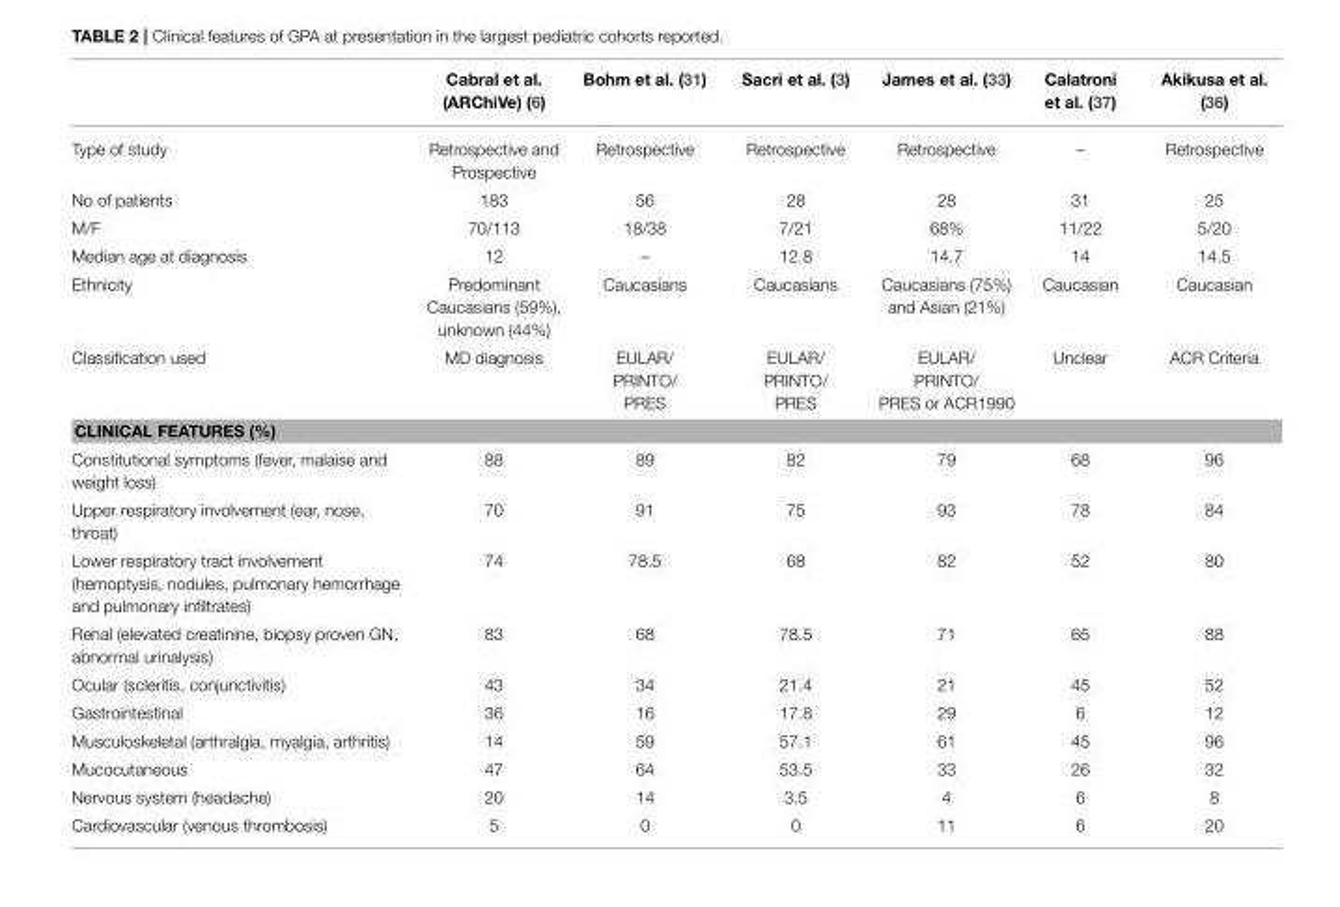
<table><thead><tr><td></td><td>Cabral et al. (ARChiVe) (6)</td><td>Bohm et al. (31)</td><td>Sacri et al. (3)</td><td>James et al. (33)</td><td>Calatroni et al. (37)</td><td>Akikusa et al. (36)</td></tr></thead><tbody><tr><td>Type of study</td><td>Retrospective and Prospective</td><td>Retrospective</td><td>Retrospective</td><td>Retrospective</td><td>–</td><td>Retrospective</td></tr><tr><td>No of patients</td><td>183</td><td>56</td><td>28</td><td>28</td><td>31</td><td>25</td></tr><tr><td>M/F</td><td>70/113</td><td>18/38</td><td>7/21</td><td>68%</td><td>11/22</td><td>5/20</td></tr><tr><td>Median age at diagnosis</td><td>12</td><td>–</td><td>12.8</td><td>14.7</td><td>14</td><td>14.5</td></tr><tr><td>Ethnicity</td><td>Predominant Caucasians (59%), unknown (44%)</td><td>Caucasians</td><td>Caucasians</td><td>Caucasians (75%) and Asian (21%)</td><td>Caucasian</td><td>Caucasian</td></tr><tr><td>Classification used</td><td>MD diagnosis</td><td>EULAR/ PRINTO/ PRES</td><td>EULAR/ PRINTO/ PRES</td><td>EULAR/ PRINTO/ PRES or ACR1990</td><td>Unclear</td><td>ACR Criteria</td></tr><tr><td colspan="7">CLINICAL FEATURES (%)</td></tr><tr><td>Constitutional symptoms (fever, malaise and weight loss)</td><td>88</td><td>89</td><td>82</td><td>79</td><td>68</td><td>96</td></tr><tr><td>Upper respiratory involvement (ear, nose, throat)</td><td>70</td><td>91</td><td>75</td><td>93</td><td>78</td><td>84</td></tr><tr><td>Lower respiratory tract involvement (hemoptysis, nodules, pulmonary hemorrhage and pulmonary infiltrates)</td><td>74</td><td>78.5</td><td>68</td><td>82</td><td>52</td><td>80</td></tr><tr><td>Renal (elevated creatinine, biopsy proven GN, abnormal urinalysis)</td><td>83</td><td>68</td><td>78.5</td><td>71</td><td>65</td><td>88</td></tr><tr><td>Ocular (scleritis, conjunctivitis)</td><td>43</td><td>34</td><td>21.4</td><td>21</td><td>45</td><td>52</td></tr><tr><td>Gastrointestinal</td><td>36</td><td>16</td><td>17.8</td><td>29</td><td>6</td><td>12</td></tr><tr><td>Musculoskeletal (arthralgia, myalgia, arthritis)</td><td>14</td><td>59</td><td>57.1</td><td>61</td><td>45</td><td>96</td></tr><tr><td>Mucocutaneous</td><td>47</td><td>64</td><td>53.5</td><td>33</td><td>26</td><td>32</td></tr><tr><td>Nervous system (headache)</td><td>20</td><td>14</td><td>3.5</td><td>4</td><td>6</td><td>8</td></tr><tr><td>Cardiovascular (venous thrombosis)</td><td>5</td><td>0</td><td>0</td><td>11</td><td>6</td><td>20</td></tr></tbody></table>